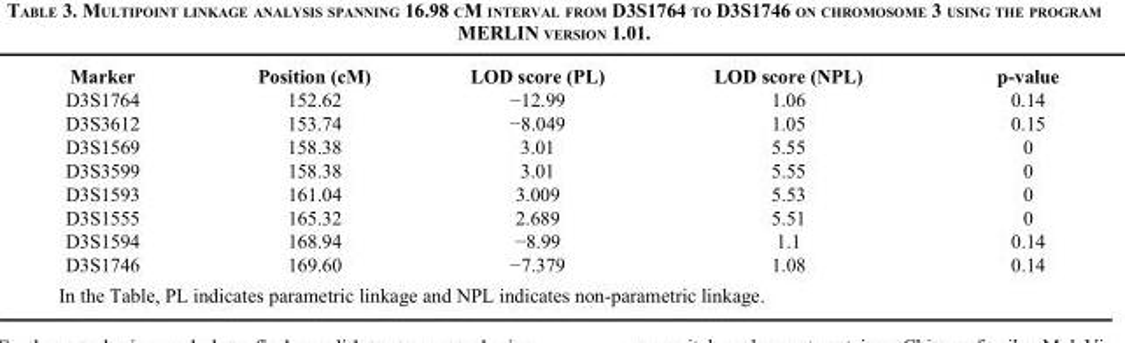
<table><thead><tr><td>Marker</td><td>Position (cM)</td><td>LOD score (PL)</td><td>LOD score (NPL)</td><td>p-value</td></tr></thead><tbody><tr><td>D3S1764</td><td>152.62</td><td>−12.99</td><td>1.06</td><td>0.14</td></tr><tr><td>D3S3612</td><td>153.74</td><td>−8.049</td><td>1.05</td><td>0.15</td></tr><tr><td>D3S1569</td><td>158.38</td><td>3.01</td><td>5.55</td><td>0</td></tr><tr><td>D3S3599</td><td>158.38</td><td>3.01</td><td>5.55</td><td>0</td></tr><tr><td>D3S1593</td><td>161.04</td><td>3.009</td><td>5.53</td><td>0</td></tr><tr><td>D3S1555</td><td>165.32</td><td>2.689</td><td>5.51</td><td>0</td></tr><tr><td>D3S1594</td><td>168.94</td><td>−8.99</td><td>1.1</td><td>0.14</td></tr><tr><td>D3S1746</td><td>169.60</td><td>−7.379</td><td>1.08</td><td>0.14</td></tr></tbody></table>